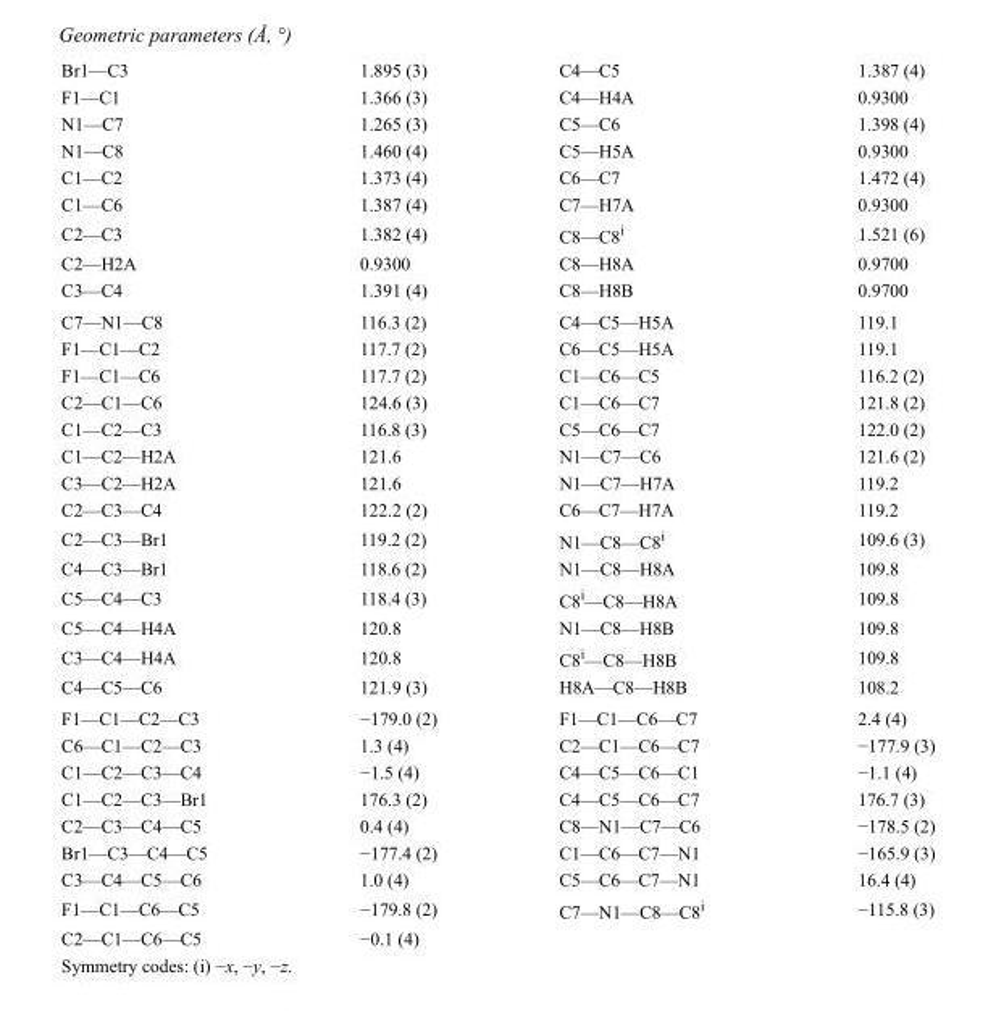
<table><tbody><tr><td>Br1—C3</td><td>1.895 (3)</td><td>C4—C5</td><td>1.387 (4)</td></tr><tr><td>F1—C1</td><td>1.366 (3)</td><td>C4—H4A</td><td>0.9300</td></tr><tr><td>N1—C7</td><td>1.265 (3)</td><td>C5—C6</td><td>1.398 (4)</td></tr><tr><td>N1—C8</td><td>1.460 (4)</td><td>C5—H5A</td><td>0.9300</td></tr><tr><td>C1—C2</td><td>1.373 (4)</td><td>C6—C7</td><td>1.472 (4)</td></tr><tr><td>C1—C6</td><td>1.387 (4)</td><td>C7—H7A</td><td>0.9300</td></tr><tr><td>C2—C3</td><td>1.382 (4)</td><td>C8—C8<sup>i</sup></td><td>1.521 (6)</td></tr><tr><td>C2—H2A</td><td>0.9300</td><td>C8—H8A</td><td>0.9700</td></tr><tr><td>C3—C4</td><td>1.391 (4)</td><td>C8—H8B</td><td>0.9700</td></tr><tr><td>C7—N1—C8</td><td>116.3 (2)</td><td>C4—C5—H5A</td><td>119.1</td></tr><tr><td>F1—C1—C2</td><td>117.7 (2)</td><td>C6—C5—H5A</td><td>119.1</td></tr><tr><td>F1—C1—C6</td><td>117.7 (2)</td><td>C1—C6—C5</td><td>116.2 (2)</td></tr><tr><td>C2—C1—C6</td><td>124.6 (3)</td><td>C1—C6—C7</td><td>121.8 (2)</td></tr><tr><td>C1—C2—C3</td><td>116.8 (3)</td><td>C5—C6—C7</td><td>122.0 (2)</td></tr><tr><td>C1—C2—H2A</td><td>121.6</td><td>N1—C7—C6</td><td>121.6 (2)</td></tr><tr><td>C3—C2—H2A</td><td>121.6</td><td>N1—C7—H7A</td><td>119.2</td></tr><tr><td>C2—C3—C4</td><td>122.2 (2)</td><td>C6—C7—H7A</td><td>119.2</td></tr><tr><td>C2—C3—Br1</td><td>119.2 (2)</td><td>N1—C8—C8<sup>i</sup></td><td>109.6 (3)</td></tr><tr><td>C4—C3—Br1</td><td>118.6 (2)</td><td>N1—C8—H8A</td><td>109.8</td></tr><tr><td>C5—C4—C3</td><td>118.4 (3)</td><td>C8<sup>i</sup>—C8—H8A</td><td>109.8</td></tr><tr><td>C5—C4—H4A</td><td>120.8</td><td>N1—C8—H8B</td><td>109.8</td></tr><tr><td>C3—C4—H4A</td><td>120.8</td><td>C8<sup>i</sup>—C8—H8B</td><td>109.8</td></tr><tr><td>C4—C5—C6</td><td>121.9 (3)</td><td>H8A—C8—H8B</td><td>108.2</td></tr><tr><td>F1—C1—C2—C3</td><td>−179.0 (2)</td><td>F1—C1—C6—C7</td><td>2.4 (4)</td></tr><tr><td>C6—C1—C2—C3</td><td>1.3 (4)</td><td>C2—C1—C6—C7</td><td>−177.9 (3)</td></tr><tr><td>C1—C2—C3—C4</td><td>−1.5 (4)</td><td>C4—C5—C6—C1</td><td>−1.1 (4)</td></tr><tr><td>C1—C2—C3—Br1</td><td>176.3 (2)</td><td>C4—C5—C6—C7</td><td>176.7 (3)</td></tr><tr><td>C2—C3—C4—C5</td><td>0.4 (4)</td><td>C8—N1—C7—C6</td><td>−178.5 (2)</td></tr><tr><td>Br1—C3—C4—C5</td><td>−177.4 (2)</td><td>C1—C6—C7—N1</td><td>−165.9 (3)</td></tr><tr><td>C3—C4—C5—C6</td><td>1.0 (4)</td><td>C5—C6—C7—N1</td><td>16.4 (4)</td></tr><tr><td>F1—C1—C6—C5</td><td>−179.8 (2)</td><td>C7—N1—C8—C8<sup>i</sup></td><td>−115.8 (3)</td></tr><tr><td>C2—C1—C6—C5</td><td>−0.1 (4)</td><td></td><td></td></tr></tbody></table>